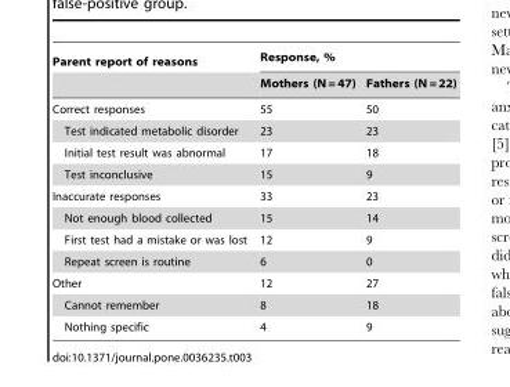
<table><thead><tr><td rowspan="2">Parent report of reasons</td><td colspan="2">Response, %</td></tr><tr><td>Mothers (N = 47)</td><td>Fathers (N = 22)</td></tr></thead><tbody><tr><td>Correct responses</td><td>55</td><td>50</td></tr><tr><td>Test indicated metabolic disorder</td><td>23</td><td>23</td></tr><tr><td>Initial test result was abnormal</td><td>17</td><td>18</td></tr><tr><td>Test inconclusive</td><td>15</td><td>9</td></tr><tr><td>Inaccurate responses</td><td>33</td><td>23</td></tr><tr><td>Not enough blood collected</td><td>15</td><td>14</td></tr><tr><td>First test had a mistake or was lost</td><td>12</td><td>9</td></tr><tr><td>Repeat screen is routine</td><td>6</td><td>0</td></tr><tr><td>Other</td><td>12</td><td>27</td></tr><tr><td>Cannot remember</td><td>8</td><td>18</td></tr><tr><td>Nothing specific</td><td>4</td><td>9</td></tr></tbody></table>